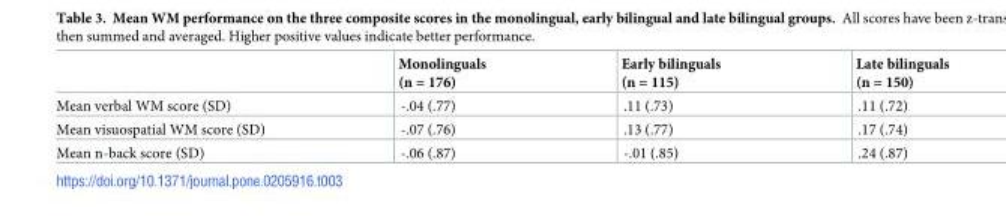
<table><thead><tr><td></td><td>Monolinguals (n = 176)</td><td>Early bilinguals (n = 115)</td><td>Late bilinguals (n = 150)</td></tr></thead><tbody><tr><td>Mean verbal WM score (SD)</td><td>-.04 (.77)</td><td>.11 (.73)</td><td>.11 (.72)</td></tr><tr><td>Mean visuospatial WM score (SD)</td><td>-.07 (.76)</td><td>.13 (.77)</td><td>.17 (.74)</td></tr><tr><td>Mean n-back score (SD)</td><td>-.06 (.87)</td><td>-.01 (.85)</td><td>.24 (.87)</td></tr></tbody></table>